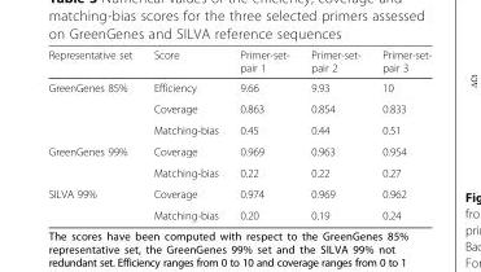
<table><thead><tr><td>Representative set</td><td>Score</td><td>Primer-set- pair 1</td><td>Primer-set- pair 2</td><td>Primer-set- pair 3</td></tr></thead><tbody><tr><td rowspan="3">GreenGenes 85%</td><td>Efficiency</td><td>9.66</td><td>9.93</td><td>10</td></tr><tr><td>Coverage</td><td>0.863</td><td>0.854</td><td>0.833</td></tr><tr><td>Matching-bias</td><td>0.45</td><td>0.44</td><td>0.51</td></tr><tr><td rowspan="2">GreenGenes 99%</td><td>Coverage</td><td>0.969</td><td>0.963</td><td>0.954</td></tr><tr><td>Matching-bias</td><td>0.22</td><td>0.22</td><td>0.27</td></tr><tr><td rowspan="2">SILVA 99%</td><td>Coverage</td><td>0.974</td><td>0.969</td><td>0.962</td></tr><tr><td>Matching-bias</td><td>0.20</td><td>0.19</td><td>0.24</td></tr></tbody></table>